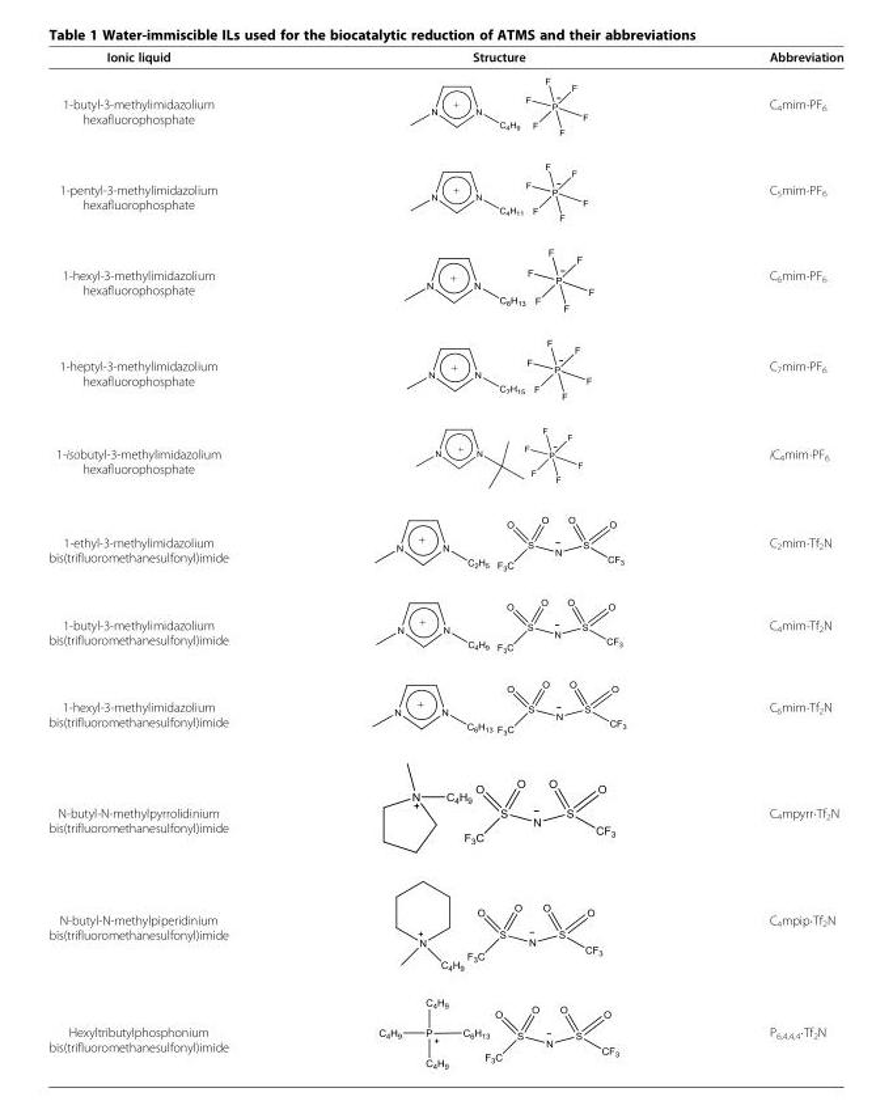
<table><thead><tr><td>Ionic liquid</td><td>Structure</td><td>Abbreviation</td></tr></thead><tbody><tr><td>1-butyl-3-methylimidazolium hexafluorophosphate</td><td></td><td>C<sub>4</sub>mim·PF<sub>6</sub></td></tr><tr><td>1-pentyl-3-methylimidazolium hexafluorophosphate</td><td></td><td>C<sub>5</sub>mim·PF<sub>6</sub></td></tr><tr><td>1-hexyl-3-methylimidazolium hexafluorophosphate</td><td></td><td>C<sub>6</sub>mim·PF<sub>6</sub></td></tr><tr><td>1-heptyl-3-methylimidazolium hexafluorophosphate</td><td></td><td>C<sub>7</sub>mim·PF<sub>6</sub></td></tr><tr><td>1-isobutyl-3-methylimidazolium hexafluorophosphate</td><td></td><td>iC<sub>4</sub>mim·PF<sub>6</sub></td></tr><tr><td>1-ethyl-3-methylimidazolium bis(trifluoromethanesulfonyl)imide</td><td></td><td>C<sub>2</sub>mim·Tf<sub>2</sub>N</td></tr><tr><td>1-butyl-3-methylimidazolium bis(trifluoromethanesulfonyl)imide</td><td></td><td>C<sub>4</sub>mim·Tf<sub>2</sub>N</td></tr><tr><td>1-hexyl-3-methylimidazolium bis(trifluoromethanesulfonyl)imide</td><td></td><td>C<sub>6</sub>mim·Tf<sub>2</sub>N</td></tr><tr><td>N-butyl-N-methylpyrrolidinium bis(trifluoromethanesulfonyl)imide</td><td></td><td>C<sub>4</sub>mpyrr·Tf<sub>2</sub>N</td></tr><tr><td>N-butyl-N-methylpiperidinium bis(trifluoromethanesulfonyl)imide</td><td></td><td>C<sub>4</sub>mpip·Tf<sub>2</sub>N</td></tr><tr><td>Hexyltributylphosphonium bis(trifluoromethanesulfonyl)imide</td><td></td><td>P<sub>6,4,4,4</sub>·Tf<sub>2</sub>N</td></tr></tbody></table>